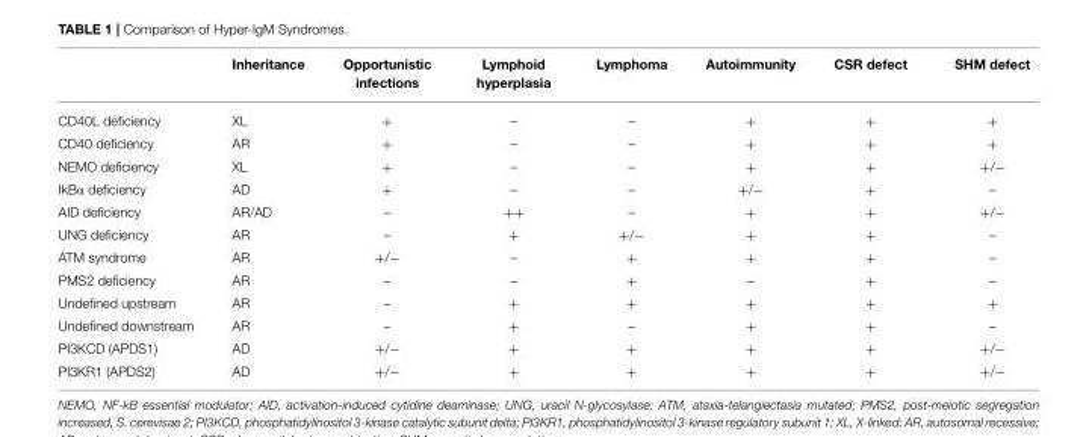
<table><thead><tr><td></td><td>Inheritance</td><td>Opportunistic infections</td><td>Lymphoid hyperplasia</td><td>Lymphoma</td><td>Autoimmunity</td><td>CSR defect</td><td>SHM defect</td></tr></thead><tbody><tr><td>CD40L deficiency</td><td>XL</td><td>+</td><td>–</td><td>–</td><td>+</td><td>+</td><td>+</td></tr><tr><td>CD40 deficiency</td><td>AR</td><td>+</td><td>–</td><td>–</td><td>+</td><td>+</td><td>+</td></tr><tr><td>NEMO deficiency</td><td>XL</td><td>+</td><td>–</td><td>–</td><td>+</td><td>+</td><td>+/−</td></tr><tr><td>IkBα deficiency</td><td>AD</td><td>+</td><td>–</td><td>–</td><td>+/−</td><td>+</td><td>–</td></tr><tr><td>AID deficiency</td><td>AR/AD</td><td>–</td><td>++</td><td>–</td><td>+</td><td>+</td><td>+/−</td></tr><tr><td>UNG deficiency</td><td>AR</td><td>–</td><td>+</td><td>+/−</td><td>+</td><td>+</td><td>–</td></tr><tr><td>ATM syndrome</td><td>AR</td><td>+/−</td><td>–</td><td>+</td><td>+</td><td>+</td><td>–</td></tr><tr><td>PMS2 deficiency</td><td>AR</td><td>–</td><td>–</td><td>+</td><td>–</td><td>+</td><td>–</td></tr><tr><td>Undefined upstream</td><td>AR</td><td>–</td><td>+</td><td>+</td><td>+</td><td>+</td><td>+</td></tr><tr><td>Undefined downstream</td><td>AR</td><td>–</td><td>+</td><td>–</td><td>+</td><td>+</td><td>–</td></tr><tr><td>PI3KCD (APDS1)</td><td>AD</td><td>+/−</td><td>+</td><td>+</td><td>+</td><td>+</td><td>+/−</td></tr><tr><td>PI3KR1 (APDS2)</td><td>AD</td><td>+/−</td><td>+</td><td>+</td><td>+</td><td>+</td><td>+/−</td></tr></tbody></table>